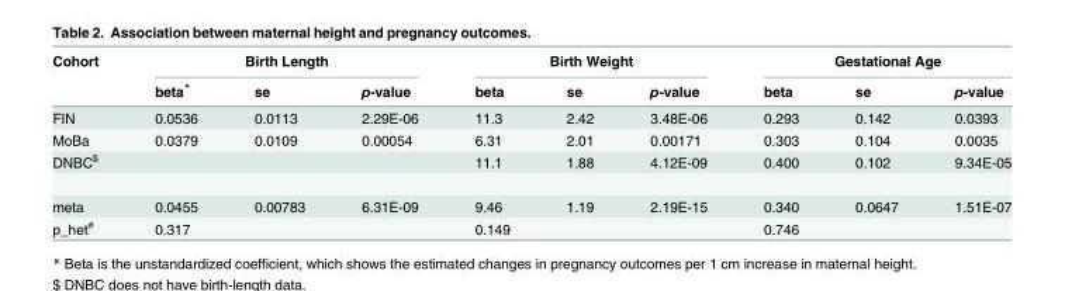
<table><thead><tr><td rowspan="2">Cohort</td><td colspan="3">Birth Length</td><td colspan="3">Birth Weight</td><td colspan="3">Gestational Age</td></tr><tr><td>beta*</td><td>se</td><td>p-value</td><td>beta</td><td>se</td><td>p-value</td><td>beta</td><td>se</td><td>p-value</td></tr></thead><tbody><tr><td>FIN</td><td>0.0536</td><td>0.0113</td><td>2.29E-06</td><td>11.3</td><td>2.42</td><td>3.48E-06</td><td>0.293</td><td>0.142</td><td>0.0393</td></tr><tr><td>MoBa</td><td>0.0379</td><td>0.0109</td><td>0.00054</td><td>6.31</td><td>2.01</td><td>0.00171</td><td>0.303</td><td>0.104</td><td>0.0035</td></tr><tr><td>DNBC<sup>$</sup></td><td></td><td></td><td></td><td>11.1</td><td>1.88</td><td>4.12E-09</td><td>0.400</td><td>0.102</td><td>9.34E-05</td></tr><tr><td>meta</td><td>0.0455</td><td>0.00783</td><td>6.31E-09</td><td>9.46</td><td>1.19</td><td>2.19E-15</td><td>0.340</td><td>0.0647</td><td>1.51E-07</td></tr><tr><td>p_het<sup>#</sup></td><td>0.317</td><td></td><td></td><td>0.149</td><td></td><td></td><td>0.746</td><td></td><td></td></tr></tbody></table>